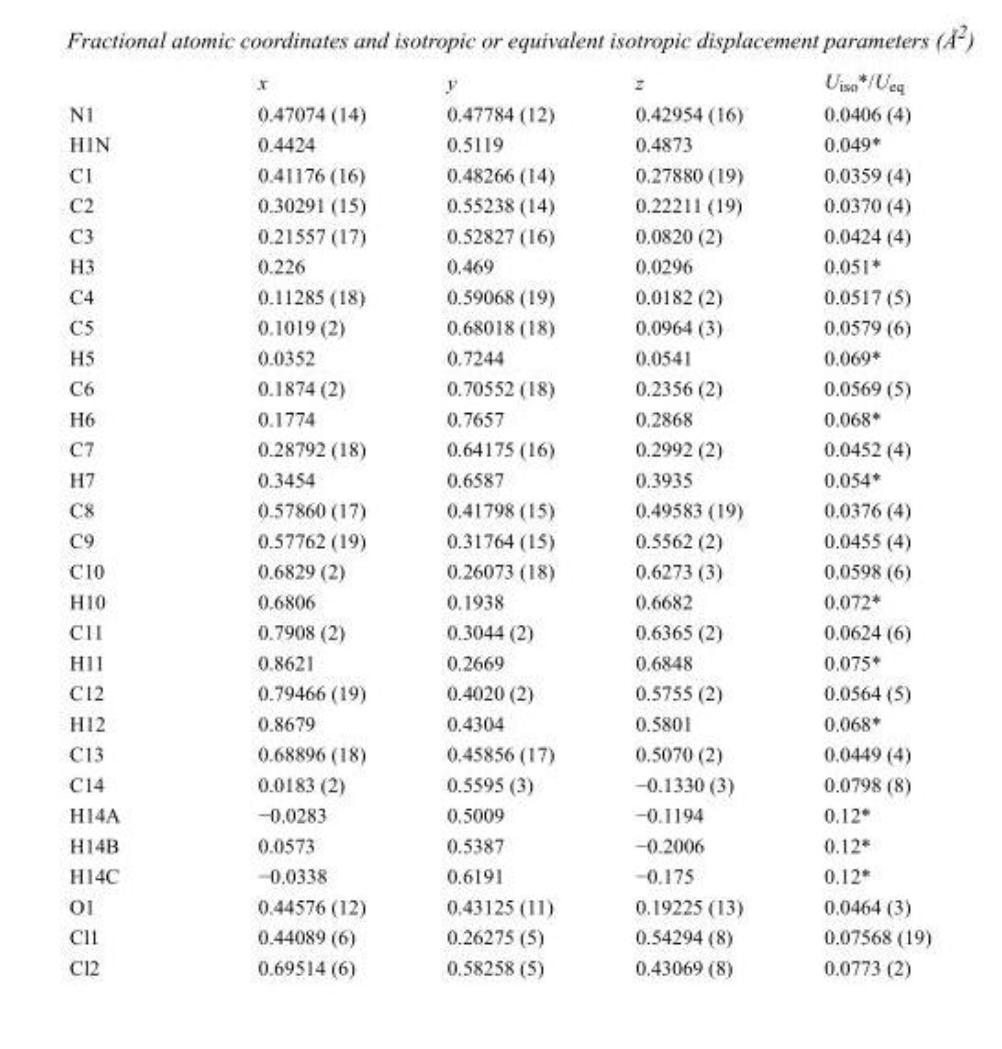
<table><thead><tr><td></td><td>x</td><td>y</td><td>z</td><td>U<sub>iso</sub>*/U<sub>eq</sub></td></tr></thead><tbody><tr><td>N1</td><td>0.47074 (14)</td><td>0.47784 (12)</td><td>0.42954 (16)</td><td>0.0406 (4)</td></tr><tr><td>H1N</td><td>0.4424</td><td>0.5119</td><td>0.4873</td><td>0.049*</td></tr><tr><td>C1</td><td>0.41176 (16)</td><td>0.48266 (14)</td><td>0.27880 (19)</td><td>0.0359 (4)</td></tr><tr><td>C2</td><td>0.30291 (15)</td><td>0.55238 (14)</td><td>0.22211 (19)</td><td>0.0370 (4)</td></tr><tr><td>C3</td><td>0.21557 (17)</td><td>0.52827 (16)</td><td>0.0820 (2)</td><td>0.0424 (4)</td></tr><tr><td>H3</td><td>0.226</td><td>0.469</td><td>0.0296</td><td>0.051*</td></tr><tr><td>C4</td><td>0.11285 (18)</td><td>0.59068 (19)</td><td>0.0182 (2)</td><td>0.0517 (5)</td></tr><tr><td>C5</td><td>0.1019 (2)</td><td>0.68018 (18)</td><td>0.0964 (3)</td><td>0.0579 (6)</td></tr><tr><td>H5</td><td>0.0352</td><td>0.7244</td><td>0.0541</td><td>0.069*</td></tr><tr><td>C6</td><td>0.1874 (2)</td><td>0.70552 (18)</td><td>0.2356 (2)</td><td>0.0569 (5)</td></tr><tr><td>H6</td><td>0.1774</td><td>0.7657</td><td>0.2868</td><td>0.068*</td></tr><tr><td>C7</td><td>0.28792 (18)</td><td>0.64175 (16)</td><td>0.2992 (2)</td><td>0.0452 (4)</td></tr><tr><td>H7</td><td>0.3454</td><td>0.6587</td><td>0.3935</td><td>0.054*</td></tr><tr><td>C8</td><td>0.57860 (17)</td><td>0.41798 (15)</td><td>0.49583 (19)</td><td>0.0376 (4)</td></tr><tr><td>C9</td><td>0.57762 (19)</td><td>0.31764 (15)</td><td>0.5562 (2)</td><td>0.0455 (4)</td></tr><tr><td>C10</td><td>0.6829 (2)</td><td>0.26073 (18)</td><td>0.6273 (3)</td><td>0.0598 (6)</td></tr><tr><td>H10</td><td>0.6806</td><td>0.1938</td><td>0.6682</td><td>0.072*</td></tr><tr><td>C11</td><td>0.7908 (2)</td><td>0.3044 (2)</td><td>0.6365 (2)</td><td>0.0624 (6)</td></tr><tr><td>H11</td><td>0.8621</td><td>0.2669</td><td>0.6848</td><td>0.075*</td></tr><tr><td>C12</td><td>0.79466 (19)</td><td>0.4020 (2)</td><td>0.5755 (2)</td><td>0.0564 (5)</td></tr><tr><td>H12</td><td>0.8679</td><td>0.4304</td><td>0.5801</td><td>0.068*</td></tr><tr><td>C13</td><td>0.68896 (18)</td><td>0.45856 (17)</td><td>0.5070 (2)</td><td>0.0449 (4)</td></tr><tr><td>C14</td><td>0.0183 (2)</td><td>0.5595 (3)</td><td>−0.1330 (3)</td><td>0.0798 (8)</td></tr><tr><td>H14A</td><td>−0.0283</td><td>0.5009</td><td>−0.1194</td><td>0.12*</td></tr><tr><td>H14B</td><td>0.0573</td><td>0.5387</td><td>−0.2006</td><td>0.12*</td></tr><tr><td>H14C</td><td>−0.0338</td><td>0.6191</td><td>−0.175</td><td>0.12*</td></tr><tr><td>O1</td><td>0.44576 (12)</td><td>0.43125 (11)</td><td>0.19225 (13)</td><td>0.0464 (3)</td></tr><tr><td>Cl1</td><td>0.44089 (6)</td><td>0.26275 (5)</td><td>0.54294 (8)</td><td>0.07568 (19)</td></tr><tr><td>Cl2</td><td>0.69514 (6)</td><td>0.58258 (5)</td><td>0.43069 (8)</td><td>0.0773 (2)</td></tr></tbody></table>